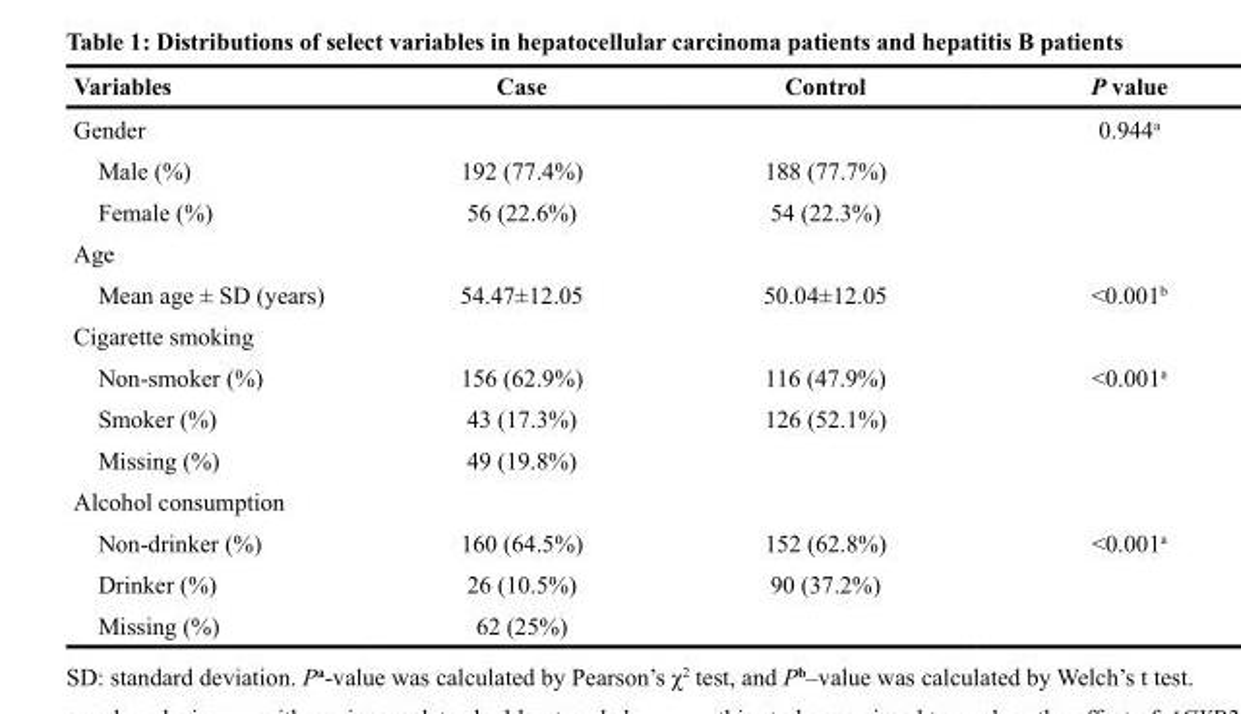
<table><thead><tr><td>Variables</td><td>Case</td><td>Control</td><td>P value</td></tr></thead><tbody><tr><td>Gender</td><td></td><td></td><td>0.944<sup>a</sup></td></tr><tr><td>Male (%)</td><td>192 (77.4%)</td><td>188 (77.7%)</td><td></td></tr><tr><td>Female (%)</td><td>56 (22.6%)</td><td>54 (22.3%)</td><td></td></tr><tr><td colspan="4">Age</td></tr><tr><td>Mean age ± SD (years)</td><td>54.47±12.05</td><td>50.04±12.05</td><td>&lt;0.001<sup>b</sup></td></tr><tr><td colspan="4">Cigarette smoking</td></tr><tr><td>Non-smoker (%)</td><td>156 (62.9%)</td><td>116 (47.9%)</td><td>&lt;0.001<sup>a</sup></td></tr><tr><td>Smoker (%)</td><td>43 (17.3%)</td><td>126 (52.1%)</td><td></td></tr><tr><td>Missing (%)</td><td>49 (19.8%)</td><td></td><td></td></tr><tr><td colspan="4">Alcohol consumption</td></tr><tr><td>Non-drinker (%)</td><td>160 (64.5%)</td><td>152 (62.8%)</td><td>&lt;0.001<sup>a</sup></td></tr><tr><td>Drinker (%)</td><td>26 (10.5%)</td><td>90 (37.2%)</td><td></td></tr><tr><td>Missing (%)</td><td>62 (25%)</td><td></td><td></td></tr></tbody></table>